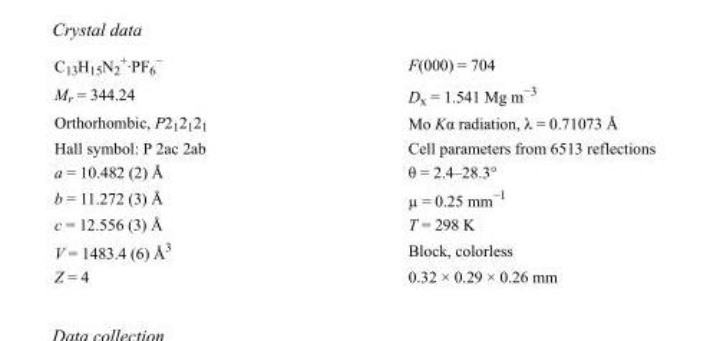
<table><tbody><tr><td>C<sub>13</sub>H<sub>15</sub>N<sub>2</sub> <sup>+</sup>·PF<sub>6</sub> <sup>−</sup></td><td>F(000) = 704</td></tr><tr><td>M<sub>r</sub> = 344.24</td><td>D<sub>x</sub> = 1.541 Mg m<sup>−3</sup></td></tr><tr><td>Orthorhombic, P2<sub>1</sub>2<sub>1</sub>2<sub>1</sub></td><td>Mo Kα radiation, λ = 0.71073 Å</td></tr><tr><td>Hall symbol: P 2ac 2ab</td><td>Cell parameters from 6513 reflections</td></tr><tr><td>a = 10.482 (2) Å</td><td>θ = 2.4–28.3°</td></tr><tr><td>b = 11.272 (3) Å</td><td>µ = 0.25 mm<sup>−1</sup></td></tr><tr><td>c = 12.556 (3) Å</td><td>T = 298 K</td></tr><tr><td>V = 1483.4 (6) Å<sup>3</sup></td><td>Block, colorless</td></tr><tr><td>Z = 4</td><td>0.32 × 0.29 × 0.26 mm</td></tr></tbody></table>